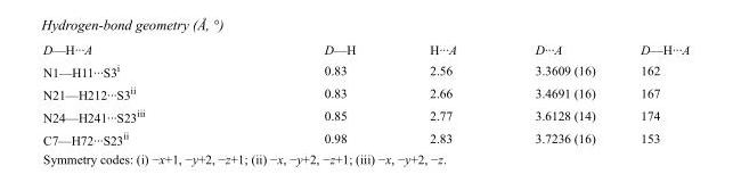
<table><tbody><tr><td>D—H···A</td><td>D—H</td><td>H···A</td><td>D···A</td><td>D—H···A</td></tr><tr><td>N1—H11···S3<sup>i</sup></td><td>0.83</td><td>2.56</td><td>3.3609 (16)</td><td>162</td></tr><tr><td>N21—H212···S3<sup>ii</sup></td><td>0.83</td><td>2.66</td><td>3.4691 (16)</td><td>167</td></tr><tr><td>N24—H241···S23<sup>iii</sup></td><td>0.85</td><td>2.77</td><td>3.6128 (14)</td><td>174</td></tr><tr><td>C7—H72···S23<sup>ii</sup></td><td>0.98</td><td>2.83</td><td>3.7236 (16)</td><td>153</td></tr></tbody></table>